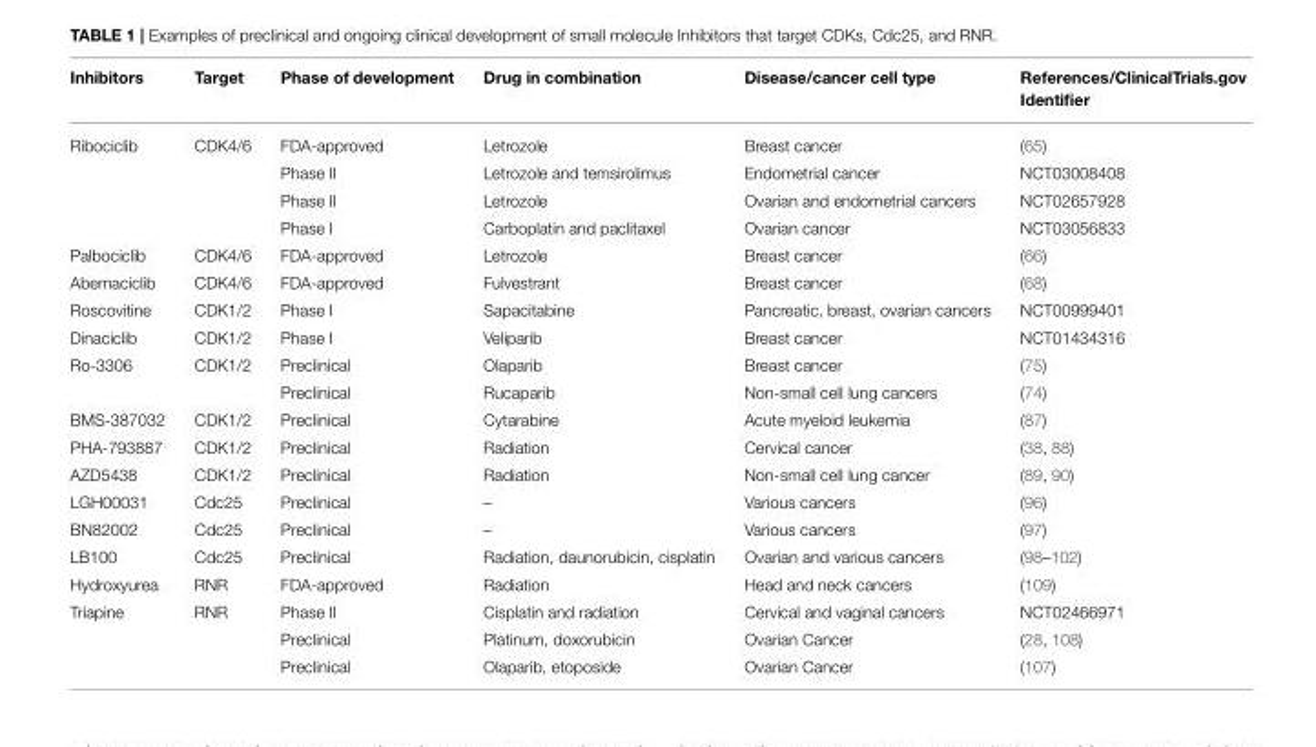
<table><thead><tr><td>Inhibitors</td><td>Target</td><td>Phase of development</td><td>Drug in combination</td><td>Disease/cancer cell type</td><td>References/ClinicalTrials.gov Identifier</td></tr></thead><tbody><tr><td rowspan="4">Ribociclib</td><td>CDK4/6</td><td>FDA-approved</td><td>Letrozole</td><td>Breast cancer</td><td>(65)</td></tr><tr><td></td><td>Phase II</td><td>Letrozole and temsirolimus</td><td>Endometrial cancer</td><td>NCT03008408</td></tr><tr><td></td><td>Phase II</td><td>Letrozole</td><td>Ovarian and endometrial cancers</td><td>NCT02657928</td></tr><tr><td></td><td>Phase I</td><td>Carboplatin and paclitaxel</td><td>Ovarian cancer</td><td>NCT03056833</td></tr><tr><td>Palbociclib</td><td>CDK4/6</td><td>FDA-approved</td><td>Letrozole</td><td>Breast cancer</td><td>(66)</td></tr><tr><td>Abemaciclib</td><td>CDK4/6</td><td>FDA-approved</td><td>Fulvestrant</td><td>Breast cancer</td><td>(68)</td></tr><tr><td>Roscovitine</td><td>CDK1/2</td><td>Phase I</td><td>Sapacitabine</td><td>Pancreatic, breast, ovarian cancers</td><td>NCT00999401</td></tr><tr><td>Dinaciclib</td><td>CDK1/2</td><td>Phase I</td><td>Veliparib</td><td>Breast cancer</td><td>NCT01434316</td></tr><tr><td rowspan="2">Ro-3306</td><td>CDK1/2</td><td>Preclinical</td><td>Olaparib</td><td>Breast cancer</td><td>(75)</td></tr><tr><td></td><td>Preclinical</td><td>Rucaparib</td><td>Non-small cell lung cancers</td><td>(74)</td></tr><tr><td>BMS-387032</td><td>CDK1/2</td><td>Preclinical</td><td>Cytarabine</td><td>Acute myeloid leukemia</td><td>(87)</td></tr><tr><td>PHA-793887</td><td>CDK1/2</td><td>Preclinical</td><td>Radiation</td><td>Cervical cancer</td><td>(38, 88)</td></tr><tr><td>AZD5438</td><td>CDK1/2</td><td>Preclinical</td><td>Radiation</td><td>Non-small cell lung cancer</td><td>(89, 90)</td></tr><tr><td>LGH00031</td><td>Cdc25</td><td>Preclinical</td><td>–</td><td>Various cancers</td><td>(96)</td></tr><tr><td>BN82002</td><td>Cdc25</td><td>Preclinical</td><td>–</td><td>Various cancers</td><td>(97)</td></tr><tr><td>LB100</td><td>Cdc25</td><td>Preclinical</td><td>Radiation, daunorubicin, cisplatin</td><td>Ovarian and various cancers</td><td>(98–102)</td></tr><tr><td>Hydroxyurea</td><td>RNR</td><td>FDA-approved</td><td>Radiation</td><td>Head and neck cancers</td><td>(109)</td></tr><tr><td rowspan="3">Triapine</td><td>RNR</td><td>Phase II</td><td>Cisplatin and radiation</td><td>Cervical and vaginal cancers</td><td>NCT02466971</td></tr><tr><td></td><td>Preclinical</td><td>Platinum, doxorubicin</td><td>Ovarian Cancer</td><td>(28, 108)</td></tr><tr><td></td><td>Preclinical</td><td>Olaparib, etoposide</td><td>Ovarian Cancer</td><td>(107)</td></tr></tbody></table>